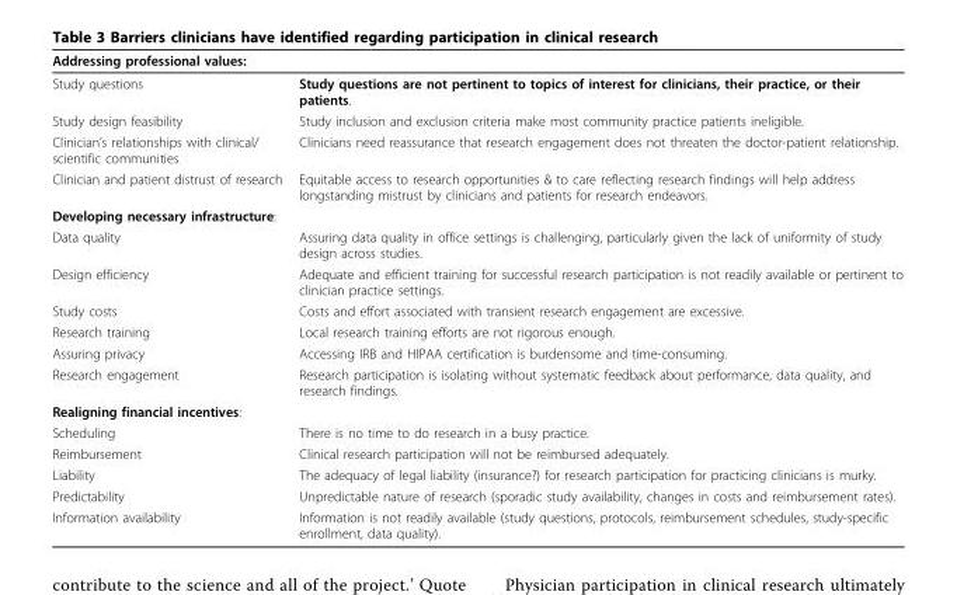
<table><thead><tr><td colspan="2">Addressing professional values:</td></tr><tr><td>Study questions</td><td>Study questions are not pertinent to topics of interest for clinicians, their practice, or their patients.</td></tr></thead><tbody><tr><td>Study design feasibility</td><td>Study inclusion and exclusion criteria make most community practice patients ineligible.</td></tr><tr><td>Clinician’s relationships with clinical/ scientific communities</td><td>Clinicians need reassurance that research engagement does not threaten the doctor-patient relationship.</td></tr><tr><td>Clinician and patient distrust of research</td><td>Equitable access to research opportunities &amp; to care reflecting research findings will help address longstanding mistrust by clinicians and patients for research endeavors.</td></tr><tr><td colspan="2">Developing necessary infrastructure:</td></tr><tr><td>Data quality</td><td>Assuring data quality in office settings is challenging, particularly given the lack of uniformity of study design across studies.</td></tr><tr><td>Design efficiency</td><td>Adequate and efficient training for successful research participation is not readily available or pertinent to clinician practice settings.</td></tr><tr><td>Study costs</td><td>Costs and effort associated with transient research engagement are excessive.</td></tr><tr><td>Research training</td><td>Local research training efforts are not rigorous enough.</td></tr><tr><td>Assuring privacy</td><td>Accessing IRB and HIPAA certification is burdensome and time-consuming.</td></tr><tr><td>Research engagement</td><td>Research participation is isolating without systematic feedback about performance, data quality, and research findings.</td></tr><tr><td colspan="2">Realigning financial incentives:</td></tr><tr><td>Scheduling</td><td>There is no time to do research in a busy practice.</td></tr><tr><td>Reimbursement</td><td>Clinical research participation will not be reimbursed adequately.</td></tr><tr><td>Liability</td><td>The adequacy of legal liability (insurance?) for research participation for practicing clinicians is murky.</td></tr><tr><td>Predictability</td><td>Unpredictable nature of research (sporadic study availability, changes in costs and reimbursement rates).</td></tr><tr><td>Information availability</td><td>Information is not readily available (study questions, protocols, reimbursement schedules, study-specific enrollment, data quality).</td></tr></tbody></table>